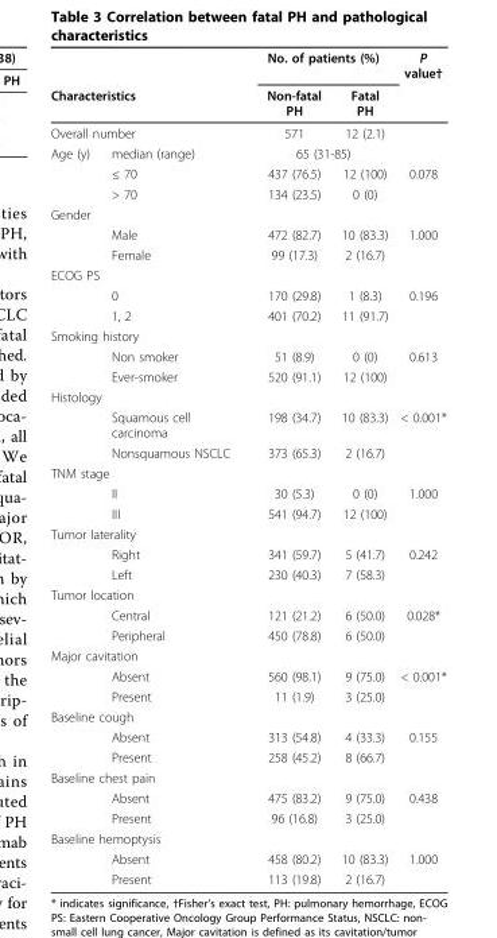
<table><thead><tr><td></td><td></td><td colspan="2">No. of patients (%)</td><td rowspan="2">P value†</td></tr><tr><td colspan="2">Characteristics</td><td>Non-fatal PH</td><td>Fatal PH</td></tr></thead><tbody><tr><td colspan="2">Overall number</td><td>571</td><td>12 (2.1)</td><td></td></tr><tr><td rowspan="3">Age (y)</td><td>median (range)</td><td colspan="2">65 (31-85)</td><td></td></tr><tr><td>≤ 70</td><td>437 (76.5)</td><td>12 (100)</td><td>0.078</td></tr><tr><td>&gt; 70</td><td>134 (23.5)</td><td>0 (0)</td><td></td></tr><tr><td colspan="5">Gender</td></tr><tr><td></td><td>Male</td><td>472 (82.7)</td><td>10 (83.3)</td><td>1.000</td></tr><tr><td></td><td>Female</td><td>99 (17.3)</td><td>2 (16.7)</td><td></td></tr><tr><td colspan="5">ECOG PS</td></tr><tr><td></td><td>0</td><td>170 (29.8)</td><td>1 (8.3)</td><td>0.196</td></tr><tr><td></td><td>1, 2</td><td>401 (70.2)</td><td>11 (91.7)</td><td></td></tr><tr><td colspan="5">Smoking history</td></tr><tr><td></td><td>Non smoker</td><td>51 (8.9)</td><td>0 (0)</td><td>0.613</td></tr><tr><td></td><td>Ever-smoker</td><td>520 (91.1)</td><td>12 (100)</td><td></td></tr><tr><td colspan="5">Histology</td></tr><tr><td></td><td>Squamous cell carcinoma</td><td>198 (34.7)</td><td>10 (83.3)</td><td>&lt; 0.001*</td></tr><tr><td></td><td>Nonsquamous NSCLC</td><td>373 (65.3)</td><td>2 (16.7)</td><td></td></tr><tr><td colspan="5">TNM stage</td></tr><tr><td></td><td>II</td><td>30 (5.3)</td><td>0 (0)</td><td>1.000</td></tr><tr><td></td><td>III</td><td>541 (94.7)</td><td>12 (100)</td><td></td></tr><tr><td colspan="5">Tumor laterality</td></tr><tr><td></td><td>Right</td><td>341 (59.7)</td><td>5 (41.7)</td><td>0.242</td></tr><tr><td></td><td>Left</td><td>230 (40.3)</td><td>7 (58.3)</td><td></td></tr><tr><td colspan="5">Tumor location</td></tr><tr><td></td><td>Central</td><td>121 (21.2)</td><td>6 (50.0)</td><td>0.028*</td></tr><tr><td></td><td>Peripheral</td><td>450 (78.8)</td><td>6 (50.0)</td><td></td></tr><tr><td colspan="5">Major cavitation</td></tr><tr><td></td><td>Absent</td><td>560 (98.1)</td><td>9 (75.0)</td><td>&lt; 0.001*</td></tr><tr><td></td><td>Present</td><td>11 (1.9)</td><td>3 (25.0)</td><td></td></tr><tr><td colspan="5">Baseline cough</td></tr><tr><td></td><td>Absent</td><td>313 (54.8)</td><td>4 (33.3)</td><td>0.155</td></tr><tr><td></td><td>Present</td><td>258 (45.2)</td><td>8 (66.7)</td><td></td></tr><tr><td colspan="5">Baseline chest pain</td></tr><tr><td></td><td>Absent</td><td>475 (83.2)</td><td>9 (75.0)</td><td>0.438</td></tr><tr><td></td><td>Present</td><td>96 (16.8)</td><td>3 (25.0)</td><td></td></tr><tr><td colspan="5">Baseline hemoptysis</td></tr><tr><td></td><td>Absent</td><td>458 (80.2)</td><td>10 (83.3)</td><td>1.000</td></tr><tr><td></td><td>Present</td><td>113 (19.8)</td><td>2 (16.7)</td><td></td></tr></tbody></table>